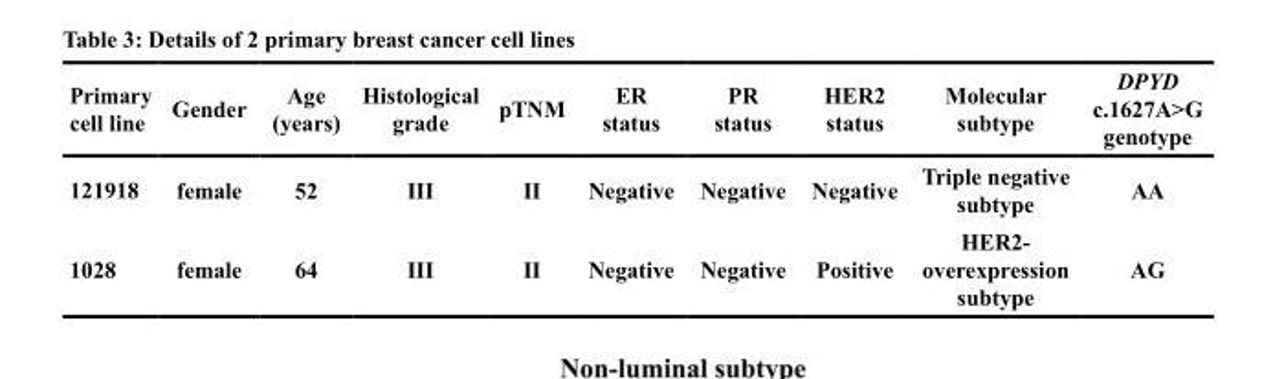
<table><thead><tr><td>Primary cell line</td><td>Gender</td><td>Age (years)</td><td>Histological grade</td><td>pTNM</td><td>ER status</td><td>PR status</td><td>HER2 status</td><td>Molecular subtype</td><td>DPYD c.1627A&gt;G genotype</td></tr></thead><tbody><tr><td>121918</td><td>female</td><td>52</td><td>III</td><td>II</td><td>Negative</td><td>Negative</td><td>Negative</td><td>Triple negative subtype</td><td>AA</td></tr><tr><td>1028</td><td>female</td><td>64</td><td>III</td><td>II</td><td>Negative</td><td>Negative</td><td>Positive</td><td>HER2- overexpression subtype</td><td>AG</td></tr></tbody></table>